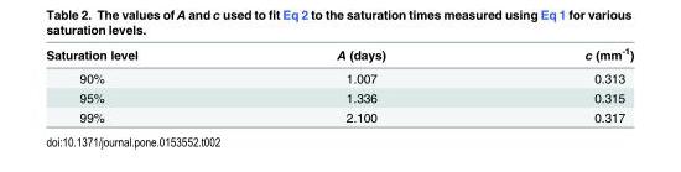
<table><thead><tr><td>Saturation level</td><td>A (days)</td><td>c (mm<sup>-1</sup>)</td></tr></thead><tbody><tr><td>90%</td><td>1.007</td><td>0.313</td></tr><tr><td>95%</td><td>1.336</td><td>0.315</td></tr><tr><td>99%</td><td>2.100</td><td>0.317</td></tr></tbody></table>